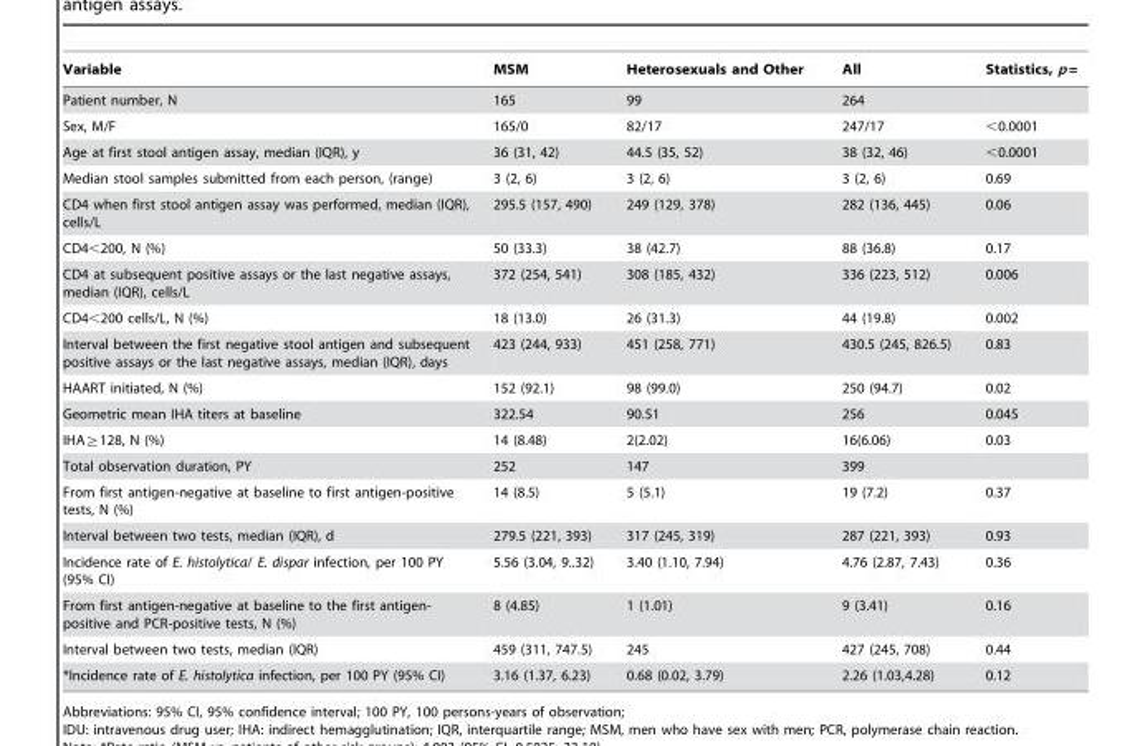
<table><thead><tr><td>Variable</td><td>MSM</td><td>Heterosexuals and Other</td><td>All</td><td>Statistics, p =</td></tr></thead><tbody><tr><td>Patient number, N</td><td>165</td><td>99</td><td>264</td><td></td></tr><tr><td>Sex, M/F</td><td>165/0</td><td>82/17</td><td>247/17</td><td>&lt;0.0001</td></tr><tr><td>Age at first stool antigen assay, median (IQR), y</td><td>36 (31, 42)</td><td>44.5 (35, 52)</td><td>38 (32, 46)</td><td>&lt;0.0001</td></tr><tr><td>Median stool samples submitted from each person, (range)</td><td>3 (2, 6)</td><td>3 (2, 6)</td><td>3 (2, 6)</td><td>0.69</td></tr><tr><td>CD4 when first stool antigen assay was performed, median (IQR), cells/L</td><td>295.5 (157, 490)</td><td>249 (129, 378)</td><td>282 (136, 445)</td><td>0.06</td></tr><tr><td>CD4&lt;200, N (%)</td><td>50 (33.3)</td><td>38 (42.7)</td><td>88 (36.8)</td><td>0.17</td></tr><tr><td>CD4 at subsequent positive assays or the last negative assays, median (IQR), cells/L</td><td>372 (254, 541)</td><td>308 (185, 432)</td><td>336 (223, 512)</td><td>0.006</td></tr><tr><td>CD4&lt;200 cells/L, N (%)</td><td>18 (13.0)</td><td>26 (31.3)</td><td>44 (19.8)</td><td>0.002</td></tr><tr><td>Interval between the first negative stool antigen and subsequent positive assays or the last negative assays, median (IQR), days</td><td>423 (244, 933)</td><td>451 (258, 771)</td><td>430.5 (245, 826.5)</td><td>0.83</td></tr><tr><td>HAART initiated, N (%)</td><td>152 (92.1)</td><td>98 (99.0)</td><td>250 (94.7)</td><td>0.02</td></tr><tr><td>Geometric mean IHA titers at baseline</td><td>322.54</td><td>90.51</td><td>256</td><td>0.045</td></tr><tr><td>IHA≧128, N (%)</td><td>14 (8.48)</td><td>2(2.02)</td><td>16(6.06)</td><td>0.03</td></tr><tr><td>Total observation duration, PY</td><td>252</td><td>147</td><td>399</td><td></td></tr><tr><td>From first antigen-negative at baseline to first antigen-positive tests, N (%)</td><td>14 (8.5)</td><td>5 (5.1)</td><td>19 (7.2)</td><td>0.37</td></tr><tr><td>Interval between two tests, median (IQR), d</td><td>279.5 (221, 393)</td><td>317 (245, 319)</td><td>287 (221, 393)</td><td>0.93</td></tr><tr><td>Incidence rate of E. histolytica/ E. dispar infection, per 100 PY (95% CI)</td><td>5.56 (3.04, 9..32)</td><td>3.40 (1.10, 7.94)</td><td>4.76 (2.87, 7.43)</td><td>0.36</td></tr><tr><td>From first antigen-negative at baseline to the first antigen- positive and PCR-positive tests, N (%)</td><td>8 (4.85)</td><td>1 (1.01)</td><td>9 (3.41)</td><td>0.16</td></tr><tr><td>Interval between two tests, median (IQR)</td><td>459 (311, 747.5)</td><td>245</td><td>427 (245, 708)</td><td>0.44</td></tr><tr><td>*Incidence rate of E. histolytica infection, per 100 PY (95% CI)</td><td>3.16 (1.37, 6.23)</td><td>0.68 (0.02, 3.79)</td><td>2.26 (1.03,4.28)</td><td>0.12</td></tr></tbody></table>